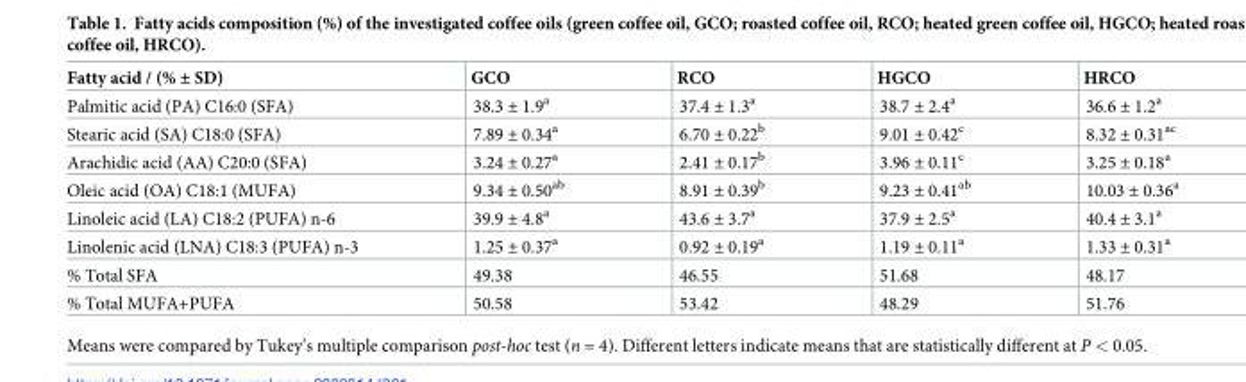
<table><thead><tr><td>Fatty acid / (% ± SD)</td><td>GCO</td><td>RCO</td><td>HGCO</td><td>HRCO</td></tr></thead><tbody><tr><td>Palmitic acid (PA) C16:0 (SFA)</td><td>38.3 ± 1.9<sup>a</sup></td><td>37.4 ± 1.3<sup>a</sup></td><td>38.7 ± 2.4<sup>a</sup></td><td>36.6 ± 1.2<sup>a</sup></td></tr><tr><td>Stearic acid (SA) C18:0 (SFA)</td><td>7.89 ± 0.34<sup>a</sup></td><td>6.70 ± 0.22<sup>b</sup></td><td>9.01 ± 0.42<sup>c</sup></td><td>8.32 ± 0.31<sup>ac</sup></td></tr><tr><td>Arachidic acid (AA) C20:0 (SFA)</td><td>3.24 ± 0.27<sup>a</sup></td><td>2.41 ± 0.17<sup>b</sup></td><td>3.96 ± 0.11<sup>c</sup></td><td>3.25 ± 0.18<sup>a</sup></td></tr><tr><td>Oleic acid (OA) C18:1 (MUFA)</td><td>9.34 ± 0.50<sup>ab</sup></td><td>8.91 ± 0.39<sup>b</sup></td><td>9.23 ± 0.41<sup>ab</sup></td><td>10.03 ± 0.36<sup>a</sup></td></tr><tr><td>Linoleic acid (LA) C18:2 (PUFA) n-6</td><td>39.9 ± 4.8<sup>a</sup></td><td>43.6 ± 3.7<sup>a</sup></td><td>37.9 ± 2.5<sup>a</sup></td><td>40.4 ± 3.1<sup>a</sup></td></tr><tr><td>Linolenic acid (LNA) C18:3 (PUFA) n-3</td><td>1.25 ± 0.37<sup>a</sup></td><td>0.92 ± 0.19<sup>a</sup></td><td>1.19 ± 0.11<sup>a</sup></td><td>1.33 ± 0.31<sup>a</sup></td></tr><tr><td>% Total SFA</td><td>49.38</td><td>46.55</td><td>51.68</td><td>48.17</td></tr><tr><td>% Total MUFA+PUFA</td><td>50.58</td><td>53.42</td><td>48.29</td><td>51.76</td></tr></tbody></table>